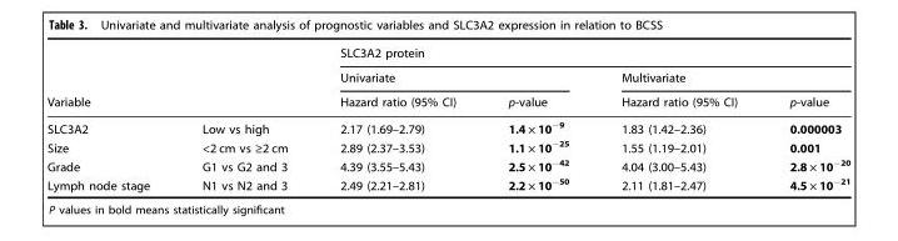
<table><thead><tr><td rowspan="2"></td><td rowspan="2"></td><td colspan="4">SLC3A2 protein</td></tr><tr><td colspan="2">Univariate</td><td colspan="2">Multivariate</td></tr><tr><td colspan="2">Variable</td><td>Hazard ratio (95% CI)</td><td>p-value</td><td>Hazard ratio (95% CI)</td><td>p-value</td></tr></thead><tbody><tr><td>SLC3A2</td><td>Low vs high</td><td>2.17 (1.69–2.79)</td><td>1.4 × 10<sup>−9</sup></td><td>1.83 (1.42–2.36)</td><td>0.000003</td></tr><tr><td>Size</td><td>&lt;2 cm vs ≥2 cm</td><td>2.89 (2.37–3.53)</td><td>1.1 × 10<sup>−25</sup></td><td>1.55 (1.19–2.01)</td><td>0.001</td></tr><tr><td>Grade</td><td>G1 vs G2 and 3</td><td>4.39 (3.55–5.43)</td><td>2.5 × 10<sup>−42</sup></td><td>4.04 (3.00–5.43)</td><td>2.8 × 10<sup>−20</sup></td></tr><tr><td>Lymph node stage</td><td>N1 vs N2 and 3</td><td>2.49 (2.21–2.81)</td><td>2.2 × 10<sup>−50</sup></td><td>2.11 (1.81–2.47)</td><td>4.5 × 10<sup>−21</sup></td></tr></tbody></table>